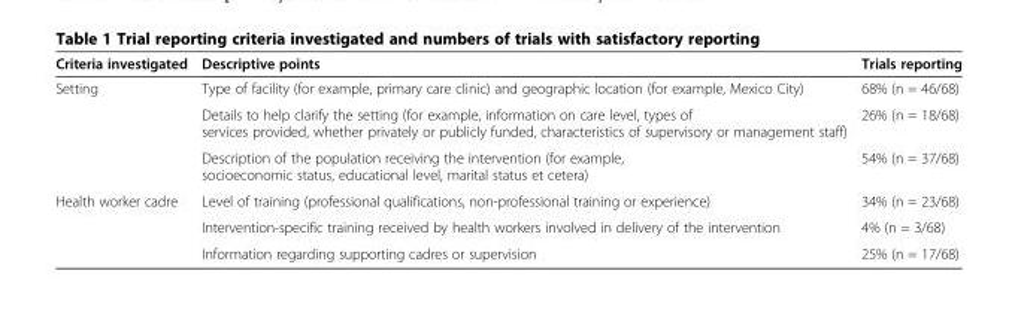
<table><thead><tr><td>Criteria investigated</td><td>Descriptive points</td><td>Trials reporting</td></tr></thead><tbody><tr><td rowspan="3">Setting</td><td>Type of facility (for example, primary care clinic) and geographic location (for example, Mexico City)</td><td>68% (n = 46/68)</td></tr><tr><td>Details to help clarify the setting (for example, information on care level, types of services provided, whether privately or publicly funded, characteristics of supervisory or management staff)</td><td>26% (n = 18/68)</td></tr><tr><td>Description of the population receiving the intervention (for example, socioeconomic status, educational level, marital status et cetera)</td><td>54% (n = 37/68)</td></tr><tr><td rowspan="3">Health worker cadre</td><td>Level of training (professional qualifications, non-professional training or experience)</td><td>34% (n = 23/68)</td></tr><tr><td>Intervention-specific training received by health workers involved in delivery of the intervention</td><td>4% (n = 3/68)</td></tr><tr><td>Information regarding supporting cadres or supervision</td><td>25% (n = 17/68)</td></tr></tbody></table>